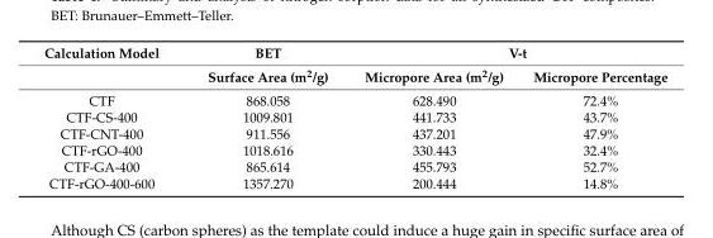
<table><thead><tr><td rowspan="2">Calculation Model</td><td rowspan="2">BET Surface Area (m<sup>2</sup>/g)</td><td colspan="2">V-t</td></tr><tr><td>Micropore Area (m<sup>2</sup>/g)</td><td>Micropore Percentage</td></tr></thead><tbody><tr><td>CTF</td><td>868.058</td><td>628.490</td><td>72.4%</td></tr><tr><td>CTF-CS-400</td><td>1009.801</td><td>441.733</td><td>43.7%</td></tr><tr><td>CTF-CNT-400</td><td>911.556</td><td>437.201</td><td>47.9%</td></tr><tr><td>CTF-rGO-400</td><td>1018.616</td><td>330.443</td><td>32.4%</td></tr><tr><td>CTF-GA-400</td><td>865.614</td><td>455.793</td><td>52.7%</td></tr><tr><td>CTF-rGO-400-600</td><td>1357.270</td><td>200.444</td><td>14.8%</td></tr></tbody></table>